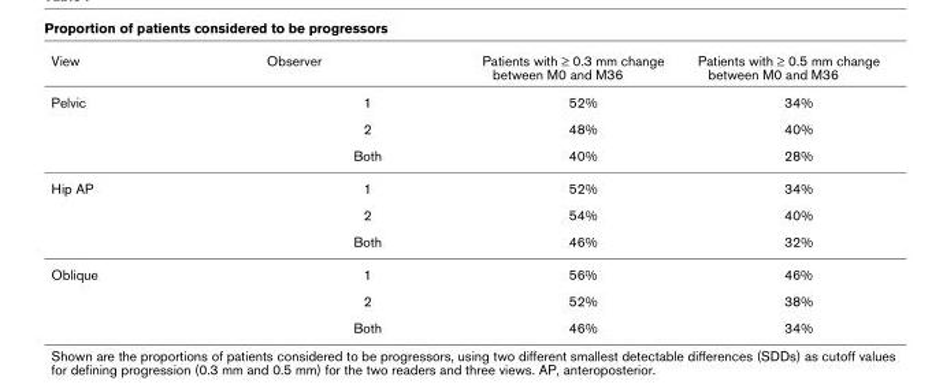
<table><thead><tr><td>View</td><td>Observer</td><td>Patients with ≥ 0.3 mm change between M0 and M36</td><td>Patients with ≥ 0.5 mm change between M0 and M36</td></tr></thead><tbody><tr><td rowspan="3">Pelvic</td><td>1</td><td>52%</td><td>34%</td></tr><tr><td>2</td><td>48%</td><td>40%</td></tr><tr><td>Both</td><td>40%</td><td>28%</td></tr><tr><td rowspan="3">Hip AP</td><td>1</td><td>52%</td><td>34%</td></tr><tr><td>2</td><td>54%</td><td>40%</td></tr><tr><td>Both</td><td>46%</td><td>32%</td></tr><tr><td rowspan="3">Oblique</td><td>1</td><td>56%</td><td>46%</td></tr><tr><td>2</td><td>52%</td><td>38%</td></tr><tr><td>Both</td><td>46%</td><td>34%</td></tr></tbody></table>